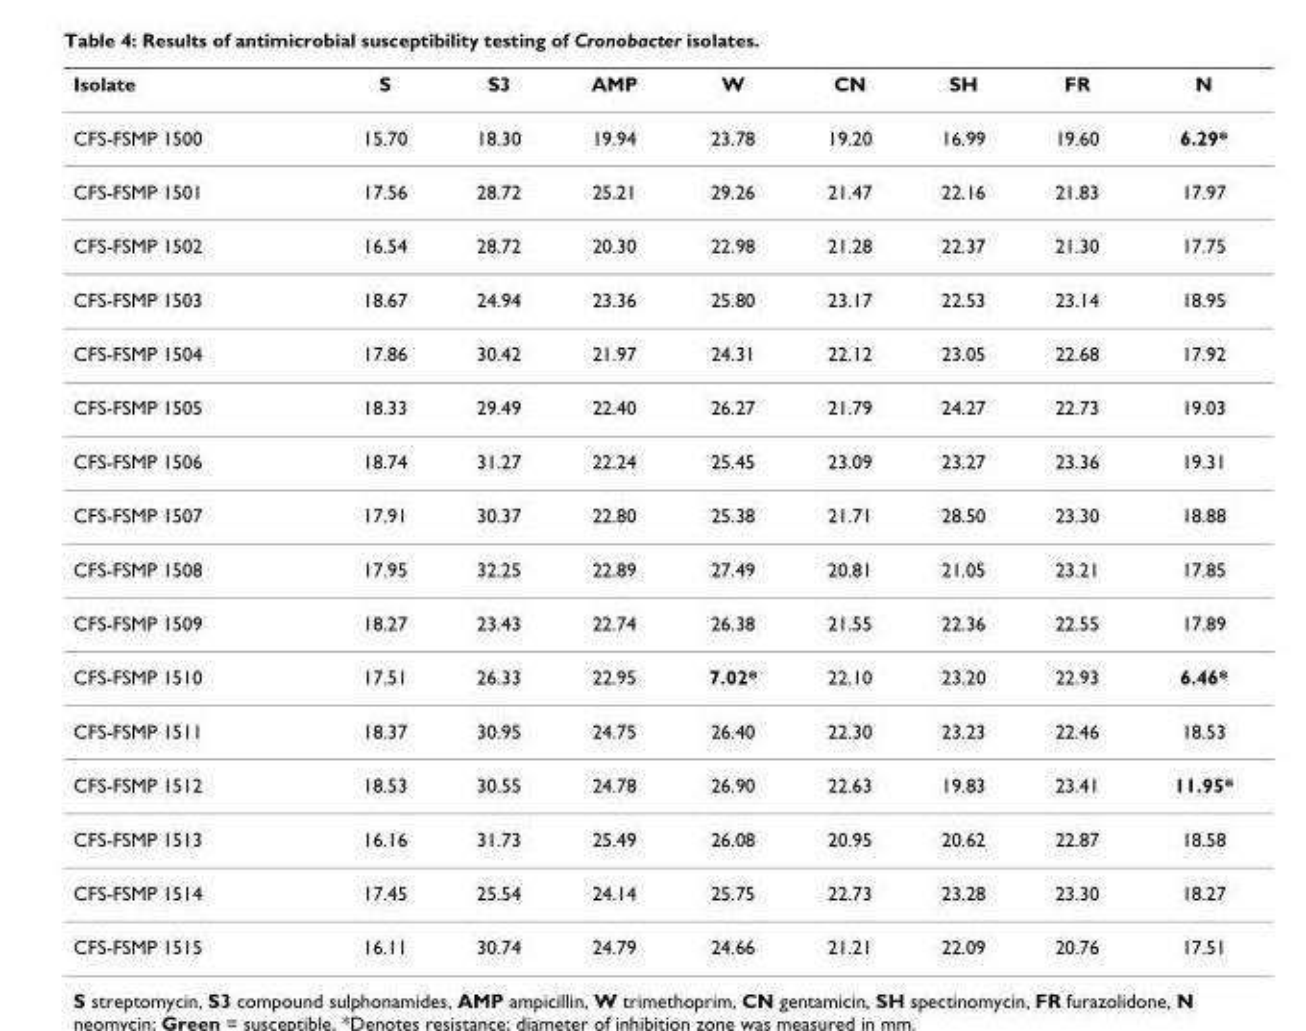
<table><thead><tr><td>Isolate</td><td>S</td><td>S3</td><td>AMP</td><td>W</td><td>CN</td><td>SH</td><td>FR</td><td>N</td></tr></thead><tbody><tr><td>CFS-FSMP 1500</td><td>15.70</td><td>18.30</td><td>19.94</td><td>23.78</td><td>19.20</td><td>16.99</td><td>19.60</td><td>6.29*</td></tr><tr><td>CFS-FSMP 1501</td><td>17.56</td><td>28.72</td><td>25.21</td><td>29.26</td><td>21.47</td><td>22.16</td><td>21.83</td><td>17.97</td></tr><tr><td>CFS-FSMP 1502</td><td>16.54</td><td>28.72</td><td>20.30</td><td>22.98</td><td>21.28</td><td>22.37</td><td>21.30</td><td>17.75</td></tr><tr><td>CFS-FSMP 1503</td><td>18.67</td><td>24.94</td><td>23.36</td><td>25.80</td><td>23.17</td><td>22.53</td><td>23.14</td><td>18.95</td></tr><tr><td>CFS-FSMP 1504</td><td>17.86</td><td>30.42</td><td>21.97</td><td>24.31</td><td>22.12</td><td>23.05</td><td>22.68</td><td>17.92</td></tr><tr><td>CFS-FSMP 1505</td><td>18.33</td><td>29.49</td><td>22.40</td><td>26.27</td><td>21.79</td><td>24.27</td><td>22.73</td><td>19.03</td></tr><tr><td>CFS-FSMP 1506</td><td>18.74</td><td>31.27</td><td>22.24</td><td>25.45</td><td>23.09</td><td>23.27</td><td>23.36</td><td>19.31</td></tr><tr><td>CFS-FSMP 1507</td><td>17.91</td><td>30.37</td><td>22.80</td><td>25.38</td><td>21.71</td><td>28.50</td><td>23.30</td><td>18.88</td></tr><tr><td>CFS-FSMP 1508</td><td>17.95</td><td>32.25</td><td>22.89</td><td>27.49</td><td>20.81</td><td>21.05</td><td>23.21</td><td>17.85</td></tr><tr><td>CFS-FSMP 1509</td><td>18.27</td><td>23.43</td><td>22.74</td><td>26.38</td><td>21.55</td><td>22.36</td><td>22.55</td><td>17.89</td></tr><tr><td>CFS-FSMP 1510</td><td>17.51</td><td>26.33</td><td>22.95</td><td>7.02*</td><td>22.10</td><td>23.20</td><td>22.93</td><td>6.46*</td></tr><tr><td>CFS-FSMP 1511</td><td>18.37</td><td>30.95</td><td>24.75</td><td>26.40</td><td>22.30</td><td>23.23</td><td>22.46</td><td>18.53</td></tr><tr><td>CFS-FSMP 1512</td><td>18.53</td><td>30.55</td><td>24.78</td><td>26.90</td><td>22.63</td><td>19.83</td><td>23.41</td><td>11.95*</td></tr><tr><td>CFS-FSMP 1513</td><td>16.16</td><td>31.73</td><td>25.49</td><td>26.08</td><td>20.95</td><td>20.62</td><td>22.87</td><td>18.58</td></tr><tr><td>CFS-FSMP 1514</td><td>17.45</td><td>25.54</td><td>24.14</td><td>25.75</td><td>22.73</td><td>23.28</td><td>23.30</td><td>18.27</td></tr><tr><td>CFS-FSMP 1515</td><td>16.11</td><td>30.74</td><td>24.79</td><td>24.66</td><td>21.21</td><td>22.09</td><td>20.76</td><td>17.51</td></tr></tbody></table>